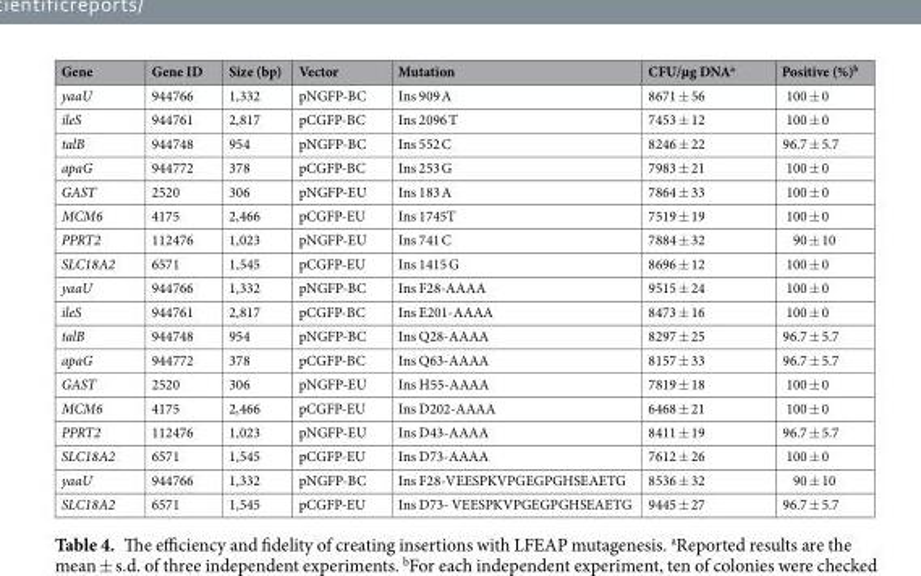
<table><thead><tr><td>Gene</td><td>Gene ID</td><td>Size (bp)</td><td>Vector</td><td>Mutation</td><td>CFU/µg DNA<sup>a</sup></td><td>Positive (%)<sup>b</sup></td></tr></thead><tbody><tr><td>yaaU</td><td>944766</td><td>1,332</td><td>pNGFP-BC</td><td>Ins 909 A</td><td>8671 ± 56</td><td>100 ± 0</td></tr><tr><td>ileS</td><td>944761</td><td>2,817</td><td>pCGFP-BC</td><td>Ins 2096 T</td><td>7453 ± 12</td><td>100 ± 0</td></tr><tr><td>talB</td><td>944748</td><td>954</td><td>pNGFP-BC</td><td>Ins 552 C</td><td>8246 ± 22</td><td>96.7 ± 5.7</td></tr><tr><td>apaG</td><td>944772</td><td>378</td><td>pCGFP-BC</td><td>Ins 253 G</td><td>7983 ± 21</td><td>100 ± 0</td></tr><tr><td>GAST</td><td>2520</td><td>306</td><td>pNGFP-EU</td><td>Ins 183 A</td><td>7864 ± 33</td><td>100 ± 0</td></tr><tr><td>MCM6</td><td>4175</td><td>2,466</td><td>pCGFP-EU</td><td>Ins 1745T</td><td>7519 ± 19</td><td>100 ± 0</td></tr><tr><td>PPRT2</td><td>112476</td><td>1,023</td><td>pNGFP-EU</td><td>Ins 741 C</td><td>7884 ± 32</td><td>90 ± 10</td></tr><tr><td>SLC18A2</td><td>6571</td><td>1,545</td><td>pCGFP-EU</td><td>Ins 1415 G</td><td>8696 ± 12</td><td>100 ± 0</td></tr><tr><td>yaaU</td><td>944766</td><td>1,332</td><td>pNGFP-BC</td><td>Ins F28-AAAA</td><td>9515 ± 24</td><td>100 ± 0</td></tr><tr><td>ileS</td><td>944761</td><td>2,817</td><td>pCGFP-BC</td><td>Ins E201-AAAA</td><td>8473 ± 16</td><td>100 ± 0</td></tr><tr><td>talB</td><td>944748</td><td>954</td><td>pNGFP-BC</td><td>Ins Q28-AAAA</td><td>8297 ± 25</td><td>96.7 ± 5.7</td></tr><tr><td>apaG</td><td>944772</td><td>378</td><td>pCGFP-BC</td><td>Ins Q63-AAAA</td><td>8157 ± 33</td><td>96.7 ± 5.7</td></tr><tr><td>GAST</td><td>2520</td><td>306</td><td>pNGFP-EU</td><td>Ins H55-AAAA</td><td>7819 ± 18</td><td>100 ± 0</td></tr><tr><td>MCM6</td><td>4175</td><td>2,466</td><td>pCGFP-EU</td><td>Ins D202-AAAA</td><td>6468 ± 21</td><td>100 ± 0</td></tr><tr><td>PPRT2</td><td>112476</td><td>1,023</td><td>pNGFP-EU</td><td>Ins D43-AAAA</td><td>8411 ± 19</td><td>96.7 ± 5.7</td></tr><tr><td>SLC18A2</td><td>6571</td><td>1,545</td><td>pCGFP-EU</td><td>Ins D73-AAAA</td><td>7612 ± 26</td><td>100 ± 0</td></tr><tr><td>yaaU</td><td>944766</td><td>1,332</td><td>pNGFP-BC</td><td>Ins F28-VEESPKVPGEGPGHSEAETG</td><td>8536 ± 32</td><td>90 ± 10</td></tr><tr><td>SLC18A2</td><td>6571</td><td>1,545</td><td>pCGFP-EU</td><td>Ins D73- VEESPKVPGEGPGHSEAETG</td><td>9445 ± 27</td><td>96.7 ± 5.7</td></tr></tbody></table>